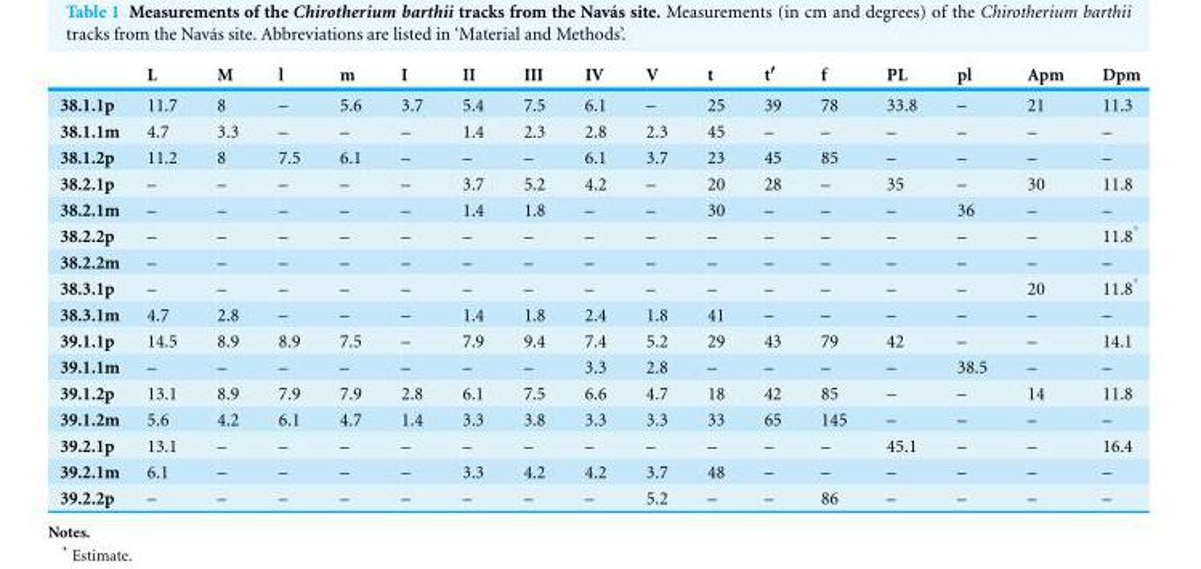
<table><thead><tr><td></td><td>L</td><td>M</td><td>l</td><td>m</td><td>I</td><td>II</td><td>III</td><td>IV</td><td>V</td><td>t</td><td>t′</td><td>f</td><td>PL</td><td>pl</td><td>Apm</td><td>Dpm</td></tr></thead><tbody><tr><td>38.1.1p</td><td>11.7</td><td>8</td><td>–</td><td>5.6</td><td>3.7</td><td>5.4</td><td>7.5</td><td>6.1</td><td>–</td><td>25</td><td>39</td><td>78</td><td>33.8</td><td>–</td><td>21</td><td>11.3</td></tr><tr><td>38.1.1m</td><td>4.7</td><td>3.3</td><td>–</td><td>–</td><td>–</td><td>1.4</td><td>2.3</td><td>2.8</td><td>2.3</td><td>45</td><td>–</td><td>–</td><td>–</td><td>–</td><td>–</td><td>–</td></tr><tr><td>38.1.2p</td><td>11.2</td><td>8</td><td>7.5</td><td>6.1</td><td>–</td><td>–</td><td>–</td><td>6.1</td><td>3.7</td><td>23</td><td>45</td><td>85</td><td>–</td><td>–</td><td>–</td><td>–</td></tr><tr><td>38.2.1p</td><td>–</td><td>–</td><td>–</td><td>–</td><td>–</td><td>3.7</td><td>5.2</td><td>4.2</td><td>–</td><td>20</td><td>28</td><td>–</td><td>35</td><td>–</td><td>30</td><td>11.8</td></tr><tr><td>38.2.1m</td><td>–</td><td>–</td><td>–</td><td>–</td><td>–</td><td>1.4</td><td>1.8</td><td>–</td><td>–</td><td>30</td><td>–</td><td>–</td><td>–</td><td>36</td><td>–</td><td>–</td></tr><tr><td>38.2.2p</td><td>–</td><td>–</td><td>–</td><td>–</td><td>–</td><td>–</td><td>–</td><td>–</td><td>–</td><td>–</td><td>–</td><td>–</td><td>–</td><td>–</td><td>–</td><td>11.8*</td></tr><tr><td>38.2.2m</td><td>–</td><td>–</td><td>–</td><td>–</td><td>–</td><td>–</td><td>–</td><td>–</td><td>–</td><td>–</td><td>–</td><td>–</td><td>–</td><td>–</td><td>–</td><td>–</td></tr><tr><td>38.3.1p</td><td>–</td><td>–</td><td>–</td><td>–</td><td>–</td><td>–</td><td>–</td><td>–</td><td>–</td><td>–</td><td>–</td><td>–</td><td>–</td><td>–</td><td>20</td><td>11.8*</td></tr><tr><td>38.3.1m</td><td>4.7</td><td>2.8</td><td>–</td><td>–</td><td>–</td><td>1.4</td><td>1.8</td><td>2.4</td><td>1.8</td><td>41</td><td>–</td><td>–</td><td>–</td><td>–</td><td>–</td><td>–</td></tr><tr><td>39.1.1p</td><td>14.5</td><td>8.9</td><td>8.9</td><td>7.5</td><td>–</td><td>7.9</td><td>9.4</td><td>7.4</td><td>5.2</td><td>29</td><td>43</td><td>79</td><td>42</td><td>–</td><td>–</td><td>14.1</td></tr><tr><td>39.1.1m</td><td>–</td><td>–</td><td>–</td><td>–</td><td>–</td><td>–</td><td>–</td><td>3.3</td><td>2.8</td><td>–</td><td>–</td><td>–</td><td>–</td><td>38.5</td><td>–</td><td>–</td></tr><tr><td>39.1.2p</td><td>13.1</td><td>8.9</td><td>7.9</td><td>7.9</td><td>2.8</td><td>6.1</td><td>7.5</td><td>6.6</td><td>4.7</td><td>18</td><td>42</td><td>85</td><td>–</td><td>–</td><td>14</td><td>11.8</td></tr><tr><td>39.1.2m</td><td>5.6</td><td>4.2</td><td>6.1</td><td>4.7</td><td>1.4</td><td>3.3</td><td>3.8</td><td>3.3</td><td>3.3</td><td>33</td><td>65</td><td>145</td><td>–</td><td>–</td><td>–</td><td>–</td></tr><tr><td>39.2.1p</td><td>13.1</td><td>–</td><td>–</td><td>–</td><td>–</td><td>–</td><td>–</td><td>–</td><td>–</td><td>–</td><td>–</td><td>–</td><td>45.1</td><td>–</td><td>–</td><td>16.4</td></tr><tr><td>39.2.1m</td><td>6.1</td><td>–</td><td>–</td><td>–</td><td>–</td><td>3.3</td><td>4.2</td><td>4.2</td><td>3.7</td><td>48</td><td>–</td><td>–</td><td>–</td><td>–</td><td>–</td><td>–</td></tr><tr><td>39.2.2p</td><td>–</td><td>–</td><td>–</td><td>–</td><td>–</td><td>–</td><td>–</td><td>–</td><td>5.2</td><td>–</td><td>–</td><td>86</td><td>–</td><td>–</td><td>–</td><td>–</td></tr></tbody></table>